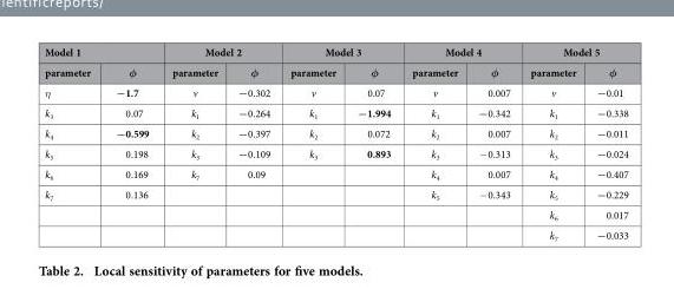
<table><thead><tr><td colspan="2">Model 1</td><td colspan="2">Model 2</td><td colspan="2">Model 3</td><td colspan="2">Model 4</td><td colspan="2">Model 5</td></tr><tr><td>parameter</td><td>φ</td><td>parameter</td><td>φ</td><td>parameter</td><td>φ</td><td>parameter</td><td>φ</td><td>parameter</td><td>φ</td></tr></thead><tbody><tr><td><sub>η</sub></td><td>−1.7</td><td>v</td><td>−0.302</td><td>v</td><td>0.07</td><td>v</td><td>0.007</td><td>v</td><td>−0.01</td></tr><tr><td>k<sub>3</sub></td><td>0.07</td><td>k<sub>1</sub></td><td>−0.264</td><td>k<sub>1</sub></td><td>−1.994</td><td>k<sub>1</sub></td><td>−0.342</td><td>k<sub>1</sub></td><td>−0.338</td></tr><tr><td>k<sub>4</sub></td><td>−0.599</td><td>k<sub>2</sub></td><td>−0.397</td><td>k<sub>2</sub></td><td>0.072</td><td>k<sub>2</sub></td><td>0.007</td><td>k<sub>2</sub></td><td>−0.011</td></tr><tr><td>k<sub>5</sub></td><td>0.198</td><td>k<sub>3</sub></td><td>−0.109</td><td>k<sub>3</sub></td><td>0.893</td><td>k<sub>3</sub></td><td>− 0.313</td><td>k<sub>3</sub></td><td>−0.024</td></tr><tr><td>k<sub>6</sub></td><td>0.169</td><td>k<sub>7</sub></td><td>0.09</td><td></td><td></td><td>k<sub>4</sub></td><td>0.007</td><td>k<sub>4</sub></td><td>−0.407</td></tr><tr><td rowspan="3">k<sub>7</sub></td><td>0.136</td><td></td><td></td><td></td><td></td><td>k<sub>5</sub></td><td>− 0.343</td><td>k<sub>5</sub></td><td>−0.229</td></tr><tr><td></td><td></td><td></td><td></td><td></td><td></td><td></td><td>k<sub>6</sub></td><td>0.017</td></tr><tr><td></td><td></td><td></td><td></td><td></td><td></td><td></td><td>k<sub>7</sub></td><td>−0.033</td></tr></tbody></table>